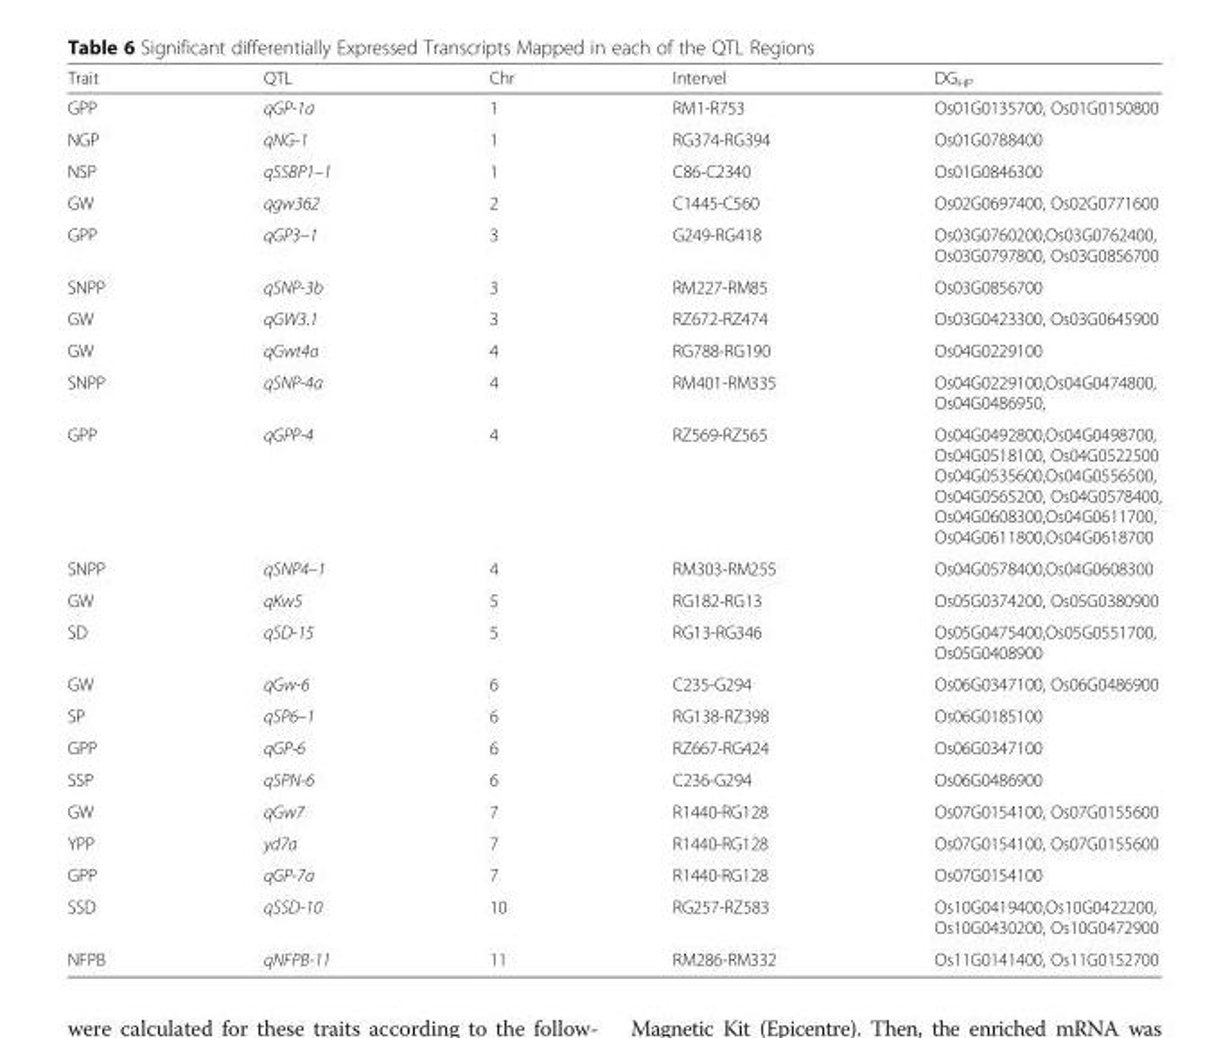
<table><thead><tr><td>Trait</td><td>QTL</td><td>Chr</td><td>Intervel</td><td>DG<sub>HP</sub></td></tr></thead><tbody><tr><td>GPP</td><td>qGP-1a</td><td>1</td><td>RM1-R753</td><td>Os01G0135700, Os01G0150800</td></tr><tr><td>NGP</td><td>qNG-1</td><td>1</td><td>RG374-RG394</td><td>Os01G0788400</td></tr><tr><td>NSP</td><td>qSSBP1–1</td><td>1</td><td>C86-C2340</td><td>Os01G0846300</td></tr><tr><td>GW</td><td>qgw362</td><td>2</td><td>C1445-C560</td><td>Os02G0697400, Os02G0771600</td></tr><tr><td>GPP</td><td>qGP3–1</td><td>3</td><td>G249-RG418</td><td>Os03G0760200,Os03G0762400, Os03G0797800, Os03G0856700</td></tr><tr><td>SNPP</td><td>qSNP-3b</td><td>3</td><td>RM227-RM85</td><td>Os03G0856700</td></tr><tr><td>GW</td><td>qGW3.1</td><td>3</td><td>RZ672-RZ474</td><td>Os03G0423300, Os03G0645900</td></tr><tr><td>GW</td><td>qGwt4a</td><td>4</td><td>RG788-RG190</td><td>Os04G0229100</td></tr><tr><td>SNPP</td><td>qSNP-4a</td><td>4</td><td>RM401-RM335</td><td>Os04G0229100,Os04G0474800, Os04G0486950,</td></tr><tr><td>GPP</td><td>qGPP-4</td><td>4</td><td>RZ569-RZ565</td><td>Os04G0492800,Os04G0498700, Os04G0518100, Os04G0522500 Os04G0535600,Os04G0556500, Os04G0565200, Os04G0578400, Os04G0608300,Os04G0611700, Os04G0611800,Os04G0618700</td></tr><tr><td>SNPP</td><td>qSNP4–1</td><td>4</td><td>RM303-RM255</td><td>Os04G0578400,Os04G0608300</td></tr><tr><td>GW</td><td>qKw5</td><td>5</td><td>RG182-RG13</td><td>Os05G0374200, Os05G0380900</td></tr><tr><td>SD</td><td>qSD-15</td><td>5</td><td>RG13-RG346</td><td>Os05G0475400,Os05G0551700, Os05G0408900</td></tr><tr><td>GW</td><td>qGw-6</td><td>6</td><td>C235-G294</td><td>Os06G0347100, Os06G0486900</td></tr><tr><td>SP</td><td>qSP6–1</td><td>6</td><td>RG138-RZ398</td><td>Os06G0185100</td></tr><tr><td>GPP</td><td>qGP-6</td><td>6</td><td>RZ667-RG424</td><td>Os06G0347100</td></tr><tr><td>SSP</td><td>qSPN-6</td><td>6</td><td>C236-G294</td><td>Os06G0486900</td></tr><tr><td>GW</td><td>qGw7</td><td>7</td><td>R1440-RG128</td><td>Os07G0154100, Os07G0155600</td></tr><tr><td>YPP</td><td>yd7a</td><td>7</td><td>R1440-RG128</td><td>Os07G0154100, Os07G0155600</td></tr><tr><td>GPP</td><td>qGP-7a</td><td>7</td><td>R1440-RG128</td><td>Os07G0154100</td></tr><tr><td>SSD</td><td>qSSD-10</td><td>10</td><td>RG257-RZ583</td><td>Os10G0419400,Os10G0422200, Os10G0430200, Os10G0472900</td></tr><tr><td>NFPB</td><td>qNFPB-11</td><td>11</td><td>RM286-RM332</td><td>Os11G0141400, Os11G0152700</td></tr></tbody></table>